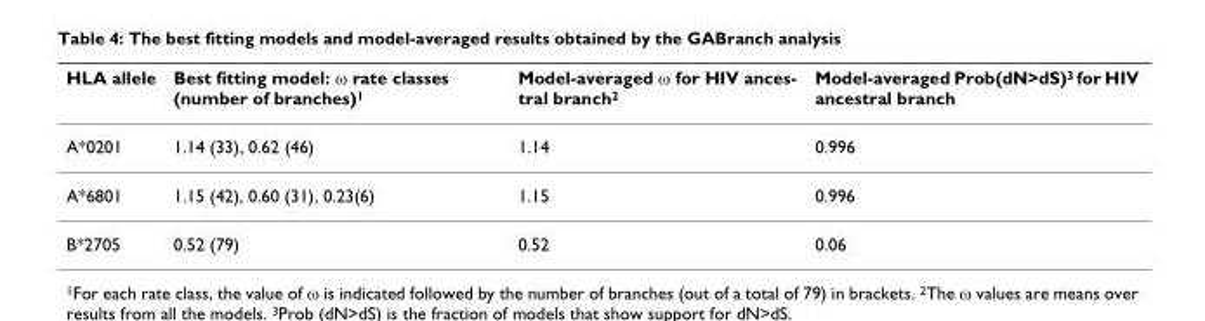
<table><thead><tr><td>HLA allele</td><td>Best fitting model: ω rate classes (number of branches)<sup>1</sup></td><td>Model-averaged ω for HIV ances- tral branch2</td><td>Model-averaged Prob(dN&gt;dS)<sup>3</sup> for HIV ancestral branch</td></tr></thead><tbody><tr><td>A*0201</td><td>1.14 (33), 0.62 (46)</td><td>1.14</td><td>0.996</td></tr><tr><td>A*6801</td><td>1.15 (42), 0.60 (31), 0.23(6)</td><td>1.15</td><td>0.996</td></tr><tr><td>B*2705</td><td>0.52 (79)</td><td>0.52</td><td>0.06</td></tr></tbody></table>